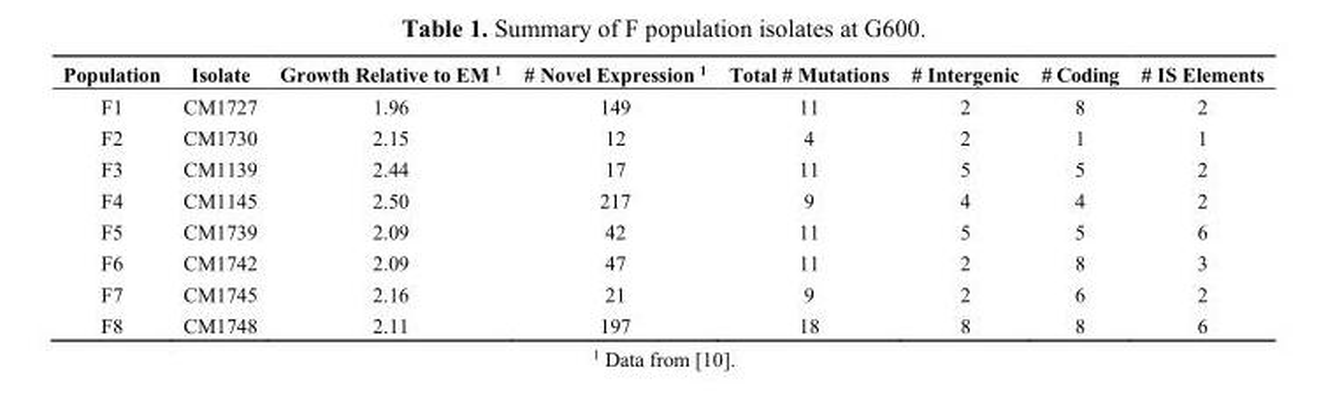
<table><thead><tr><td>Population</td><td>Isolate</td><td>Growth Relative to EM <sup>1</sup></td><td># Novel Expression <sup>1</sup></td><td>Total # Mutations</td><td># Intergenic</td><td># Coding</td><td># IS Elements</td></tr></thead><tbody><tr><td>F1</td><td>CM1727</td><td>1.96</td><td>149</td><td>11</td><td>2</td><td>8</td><td>2</td></tr><tr><td>F2</td><td>CM1730</td><td>2.15</td><td>12</td><td>4</td><td>2</td><td>1</td><td>1</td></tr><tr><td>F3</td><td>CM1139</td><td>2.44</td><td>17</td><td>11</td><td>5</td><td>5</td><td>2</td></tr><tr><td>F4</td><td>CM1145</td><td>2.50</td><td>217</td><td>9</td><td>4</td><td>4</td><td>2</td></tr><tr><td>F5</td><td>CM1739</td><td>2.09</td><td>42</td><td>11</td><td>5</td><td>5</td><td>6</td></tr><tr><td>F6</td><td>CM1742</td><td>2.09</td><td>47</td><td>11</td><td>2</td><td>8</td><td>3</td></tr><tr><td>F7</td><td>CM1745</td><td>2.16</td><td>21</td><td>9</td><td>2</td><td>6</td><td>2</td></tr><tr><td>F8</td><td>CM1748</td><td>2.11</td><td>197</td><td>18</td><td>8</td><td>8</td><td>6</td></tr></tbody></table>